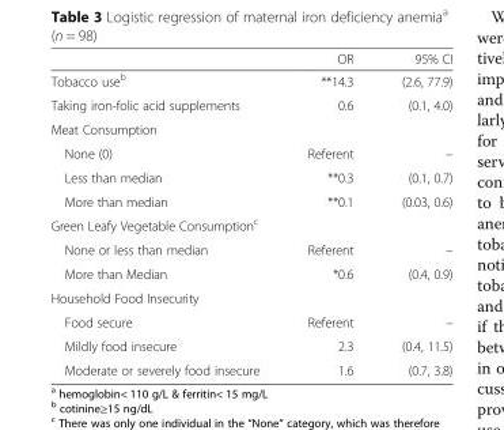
<table><thead><tr><td></td><td>OR</td><td>95% CI</td></tr></thead><tbody><tr><td>Tobacco use<sup>b</sup></td><td>**14.3</td><td>(2.6, 77.9)</td></tr><tr><td>Taking iron-folic acid supplements</td><td>0.6</td><td>(0.1, 4.0)</td></tr><tr><td colspan="3">Meat Consumption</td></tr><tr><td>None (0)</td><td>Referent</td><td>–</td></tr><tr><td>Less than median</td><td>**0.3</td><td>(0.1, 0.7)</td></tr><tr><td>More than median</td><td>**0.1</td><td>(0.03, 0.6)</td></tr><tr><td colspan="3">Green Leafy Vegetable Consumption<sup>c</sup></td></tr><tr><td>None or less than median</td><td>Referent</td><td>–</td></tr><tr><td>More than Median</td><td>*0.6</td><td>(0.4, 0.9)</td></tr><tr><td colspan="3">Household Food Insecurity</td></tr><tr><td>Food secure</td><td>Referent</td><td>–</td></tr><tr><td>Mildly food insecure</td><td>2.3</td><td>(0.4, 11.5)</td></tr><tr><td>Moderate or severely food insecure</td><td>1.6</td><td>(0.7, 3.8)</td></tr></tbody></table>